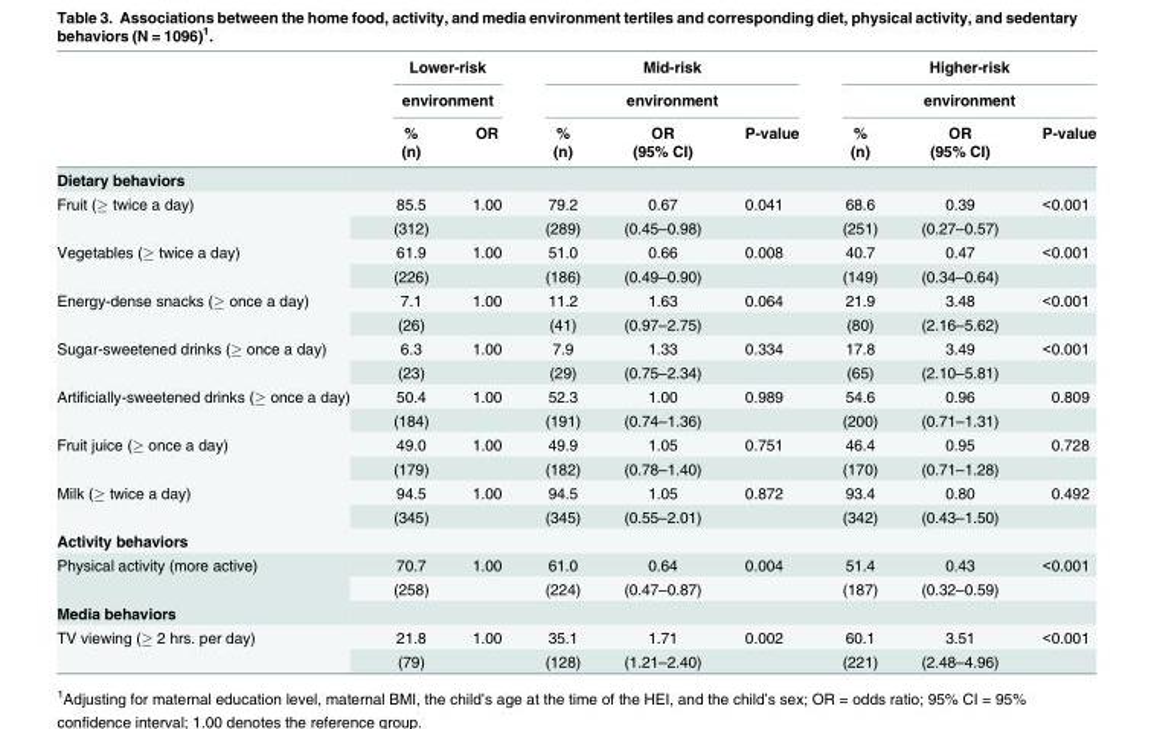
<table><thead><tr><td rowspan="4"></td><td rowspan="2" colspan="2">Lower-risk environment</td><td rowspan="2" colspan="3">Mid-risk environment</td><td rowspan="2" colspan="3">Higher-risk environment</td></tr><tr></tr><tr><td rowspan="2">% (n)</td><td rowspan="2">OR</td><td rowspan="2">% (n)</td><td rowspan="2">OR (95% CI)</td><td rowspan="2">P-value</td><td rowspan="2">% (n)</td><td rowspan="2">OR (95% CI)</td><td rowspan="2">P-value</td></tr><tr></tr></thead><tbody><tr><td colspan="9">Dietary behaviors</td></tr><tr><td rowspan="2">Fruit (≥ twice a day)</td><td>85.5</td><td>1.00</td><td>79.2</td><td>0.67</td><td>0.041</td><td>68.6</td><td>0.39</td><td>&lt;0.001</td></tr><tr><td>(312)</td><td></td><td>(289)</td><td>(0.45–0.98)</td><td></td><td>(251)</td><td>(0.27–0.57)</td><td></td></tr><tr><td rowspan="2">Vegetables (≥ twice a day)</td><td>61.9</td><td>1.00</td><td>51.0</td><td>0.66</td><td>0.008</td><td>40.7</td><td>0.47</td><td>&lt;0.001</td></tr><tr><td>(226)</td><td></td><td>(186)</td><td>(0.49–0.90)</td><td></td><td>(149)</td><td>(0.34–0.64)</td><td></td></tr><tr><td rowspan="2">Energy-dense snacks (≥ once a day)</td><td>7.1</td><td>1.00</td><td>11.2</td><td>1.63</td><td>0.064</td><td>21.9</td><td>3.48</td><td>&lt;0.001</td></tr><tr><td>(26)</td><td></td><td>(41)</td><td>(0.97–2.75)</td><td></td><td>(80)</td><td>(2.16–5.62)</td><td></td></tr><tr><td rowspan="2">Sugar-sweetened drinks (≥ once a day)</td><td>6.3</td><td>1.00</td><td>7.9</td><td>1.33</td><td>0.334</td><td>17.8</td><td>3.49</td><td>&lt;0.001</td></tr><tr><td>(23)</td><td></td><td>(29)</td><td>(0.75–2.34)</td><td></td><td>(65)</td><td>(2.10–5.81)</td><td></td></tr><tr><td rowspan="2">Artificially-sweetened drinks (≥ once a day)</td><td>50.4</td><td>1.00</td><td>52.3</td><td>1.00</td><td>0.989</td><td>54.6</td><td>0.96</td><td>0.809</td></tr><tr><td>(184)</td><td></td><td>(191)</td><td>(0.74–1.36)</td><td></td><td>(200)</td><td>(0.71–1.31)</td><td></td></tr><tr><td rowspan="2">Fruit juice (≥ once a day)</td><td>49.0</td><td>1.00</td><td>49.9</td><td>1.05</td><td>0.751</td><td>46.4</td><td>0.95</td><td>0.728</td></tr><tr><td>(179)</td><td></td><td>(182)</td><td>(0.78–1.40)</td><td></td><td>(170)</td><td>(0.71–1.28)</td><td></td></tr><tr><td rowspan="2">Milk (≥ twice a day)</td><td>94.5</td><td>1.00</td><td>94.5</td><td>1.05</td><td>0.872</td><td>93.4</td><td>0.80</td><td>0.492</td></tr><tr><td>(345)</td><td></td><td>(345)</td><td>(0.55–2.01)</td><td></td><td>(342)</td><td>(0.43–1.50)</td><td></td></tr><tr><td colspan="9">Activity behaviors</td></tr><tr><td rowspan="2">Physical activity (more active)</td><td>70.7</td><td>1.00</td><td>61.0</td><td>0.64</td><td>0.004</td><td>51.4</td><td>0.43</td><td>&lt;0.001</td></tr><tr><td>(258)</td><td></td><td>(224)</td><td>(0.47–0.87)</td><td></td><td>(187)</td><td>(0.32–0.59)</td><td></td></tr><tr><td colspan="9">Media behaviors</td></tr><tr><td rowspan="2">TV viewing (≥ 2 hrs. per day)</td><td>21.8</td><td>1.00</td><td>35.1</td><td>1.71</td><td>0.002</td><td>60.1</td><td>3.51</td><td>&lt;0.001</td></tr><tr><td>(79)</td><td></td><td>(128)</td><td>(1.21–2.40)</td><td></td><td>(221)</td><td>(2.48–4.96)</td><td></td></tr></tbody></table>